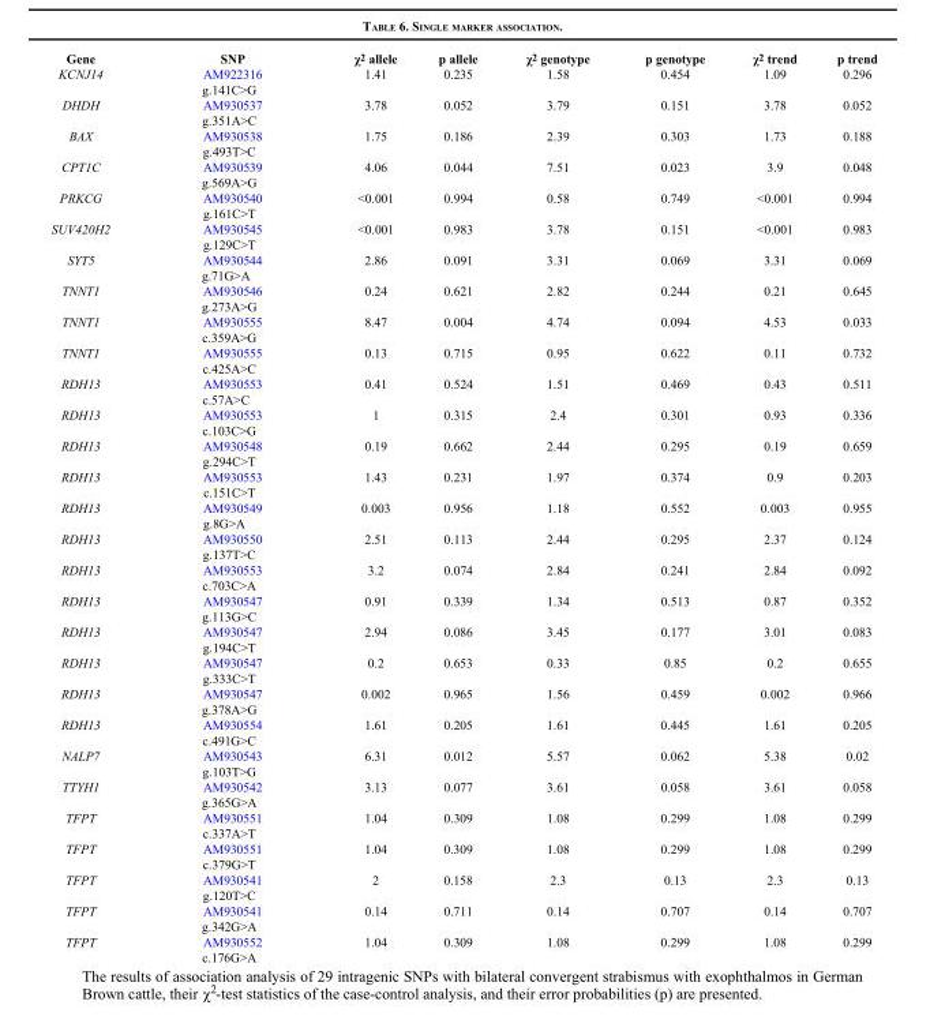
<table><thead><tr><td>Gene</td><td>SNP</td><td>χ<sup>2</sup> allele</td><td>p allele</td><td>χ<sup>2</sup> genotype</td><td>p genotype</td><td>χ<sup>2</sup> trend</td><td>p trend</td></tr></thead><tbody><tr><td>KCNJ14</td><td>AM922316 g.141C&gt;G</td><td>1.41</td><td>0.235</td><td>1.58</td><td>0.454</td><td>1.09</td><td>0.296</td></tr><tr><td>DHDH</td><td>AM930537 g.351A&gt;C</td><td>3.78</td><td>0.052</td><td>3.79</td><td>0.151</td><td>3.78</td><td>0.052</td></tr><tr><td>BAX</td><td>AM930538 g.493T&gt;C</td><td>1.75</td><td>0.186</td><td>2.39</td><td>0.303</td><td>1.73</td><td>0.188</td></tr><tr><td>CPT1C</td><td>AM930539 g.569A&gt;G</td><td>4.06</td><td>0.044</td><td>7.51</td><td>0.023</td><td>3.9</td><td>0.048</td></tr><tr><td>PRKCG</td><td>AM930540 g.161C&gt;T</td><td>&lt;0.001</td><td>0.994</td><td>0.58</td><td>0.749</td><td>&lt;0.001</td><td>0.994</td></tr><tr><td>SUV420H2</td><td>AM930545 g.129C&gt;T</td><td>&lt;0.001</td><td>0.983</td><td>3.78</td><td>0.151</td><td>&lt;0.001</td><td>0.983</td></tr><tr><td>SYT5</td><td>AM930544 g.71G&gt;A</td><td>2.86</td><td>0.091</td><td>3.31</td><td>0.069</td><td>3.31</td><td>0.069</td></tr><tr><td>TNNT1</td><td>AM930546 g.273A&gt;G</td><td>0.24</td><td>0.621</td><td>2.82</td><td>0.244</td><td>0.21</td><td>0.645</td></tr><tr><td>TNNT1</td><td>AM930555 c.359A&gt;G</td><td>8.47</td><td>0.004</td><td>4.74</td><td>0.094</td><td>4.53</td><td>0.033</td></tr><tr><td>TNNT1</td><td>AM930555 c.425A&gt;C</td><td>0.13</td><td>0.715</td><td>0.95</td><td>0.622</td><td>0.11</td><td>0.732</td></tr><tr><td>RDH13</td><td>AM930553 c.57A&gt;C</td><td>0.41</td><td>0.524</td><td>1.51</td><td>0.469</td><td>0.43</td><td>0.511</td></tr><tr><td>RDH13</td><td>AM930553 c.103C&gt;G</td><td>1</td><td>0.315</td><td>2.4</td><td>0.301</td><td>0.93</td><td>0.336</td></tr><tr><td>RDH13</td><td>AM930548 g.294C&gt;T</td><td>0.19</td><td>0.662</td><td>2.44</td><td>0.295</td><td>0.19</td><td>0.659</td></tr><tr><td>RDH13</td><td>AM930553 c.151C&gt;T</td><td>1.43</td><td>0.231</td><td>1.97</td><td>0.374</td><td>0.9</td><td>0.203</td></tr><tr><td>RDH13</td><td>AM930549 g.8G&gt;A</td><td>0.003</td><td>0.956</td><td>1.18</td><td>0.552</td><td>0.003</td><td>0.955</td></tr><tr><td>RDH13</td><td>AM930550 g.137T&gt;C</td><td>2.51</td><td>0.113</td><td>2.44</td><td>0.295</td><td>2.37</td><td>0.124</td></tr><tr><td>RDH13</td><td>AM930553 c.703C&gt;A</td><td>3.2</td><td>0.074</td><td>2.84</td><td>0.241</td><td>2.84</td><td>0.092</td></tr><tr><td>RDH13</td><td>AM930547 g.113G&gt;C</td><td>0.91</td><td>0.339</td><td>1.34</td><td>0.513</td><td>0.87</td><td>0.352</td></tr><tr><td>RDH13</td><td>AM930547 g.194C&gt;T</td><td>2.94</td><td>0.086</td><td>3.45</td><td>0.177</td><td>3.01</td><td>0.083</td></tr><tr><td>RDH13</td><td>AM930547 g.333C&gt;T</td><td>0.2</td><td>0.653</td><td>0.33</td><td>0.85</td><td>0.2</td><td>0.655</td></tr><tr><td>RDH13</td><td>AM930547 g.378A&gt;G</td><td>0.002</td><td>0.965</td><td>1.56</td><td>0.459</td><td>0.002</td><td>0.966</td></tr><tr><td>RDH13</td><td>AM930554 c.491G&gt;C</td><td>1.61</td><td>0.205</td><td>1.61</td><td>0.445</td><td>1.61</td><td>0.205</td></tr><tr><td>NALP7</td><td>AM930543 g.103T&gt;G</td><td>6.31</td><td>0.012</td><td>5.57</td><td>0.062</td><td>5.38</td><td>0.02</td></tr><tr><td>TTYH1</td><td>AM930542 g.365G&gt;A</td><td>3.13</td><td>0.077</td><td>3.61</td><td>0.058</td><td>3.61</td><td>0.058</td></tr><tr><td>TFPT</td><td>AM930551 c.337A&gt;T</td><td>1.04</td><td>0.309</td><td>1.08</td><td>0.299</td><td>1.08</td><td>0.299</td></tr><tr><td>TFPT</td><td>AM930551 c.379G&gt;T</td><td>1.04</td><td>0.309</td><td>1.08</td><td>0.299</td><td>1.08</td><td>0.299</td></tr><tr><td>TFPT</td><td>AM930541 g.120T&gt;C</td><td>2</td><td>0.158</td><td>2.3</td><td>0.13</td><td>2.3</td><td>0.13</td></tr><tr><td>TFPT</td><td>AM930541 g.342G&gt;A</td><td>0.14</td><td>0.711</td><td>0.14</td><td>0.707</td><td>0.14</td><td>0.707</td></tr><tr><td>TFPT</td><td>AM930552 c.176G&gt;A</td><td>1.04</td><td>0.309</td><td>1.08</td><td>0.299</td><td>1.08</td><td>0.299</td></tr></tbody></table>